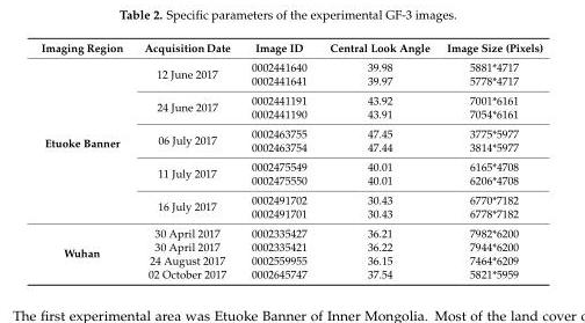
<table><thead><tr><td>Imaging Region</td><td>Acquisition Date</td><td>Image ID</td><td>Central Look Angle</td><td>Image Size (Pixels)</td></tr></thead><tbody><tr><td rowspan="10">Etuoke Banner</td><td rowspan="2">12 June 2017</td><td>0002441640</td><td>39.98</td><td>5881*4717</td></tr><tr><td>0002441641</td><td>39.97</td><td>5778*4717</td></tr><tr><td rowspan="2">24 June 2017</td><td>0002441191</td><td>43.92</td><td>7001*6161</td></tr><tr><td>0002441190</td><td>43.91</td><td>7054*6161</td></tr><tr><td rowspan="2">06 July 2017</td><td>0002463755</td><td>47.45</td><td>3775*5977</td></tr><tr><td>0002463754</td><td>47.44</td><td>3814*5977</td></tr><tr><td rowspan="2">11 July 2017</td><td>0002475549</td><td>40.01</td><td>6165*4708</td></tr><tr><td>0002475550</td><td>40.01</td><td>6206*4708</td></tr><tr><td rowspan="2">16 July 2017</td><td>0002491702</td><td>30.43</td><td>6770*7182</td></tr><tr><td>0002491701</td><td>30.43</td><td>6778*7182</td></tr><tr><td rowspan="4">Wuhan</td><td>30 April 2017</td><td>0002335427</td><td>36.21</td><td>7982*6200</td></tr><tr><td>30 April 2017</td><td>0002335421</td><td>36.22</td><td>7944*6200</td></tr><tr><td>24 August 2017</td><td>0002559955</td><td>36.15</td><td>7464*6209</td></tr><tr><td>02 October 2017</td><td>0002645747</td><td>37.54</td><td>5821*5959</td></tr></tbody></table>